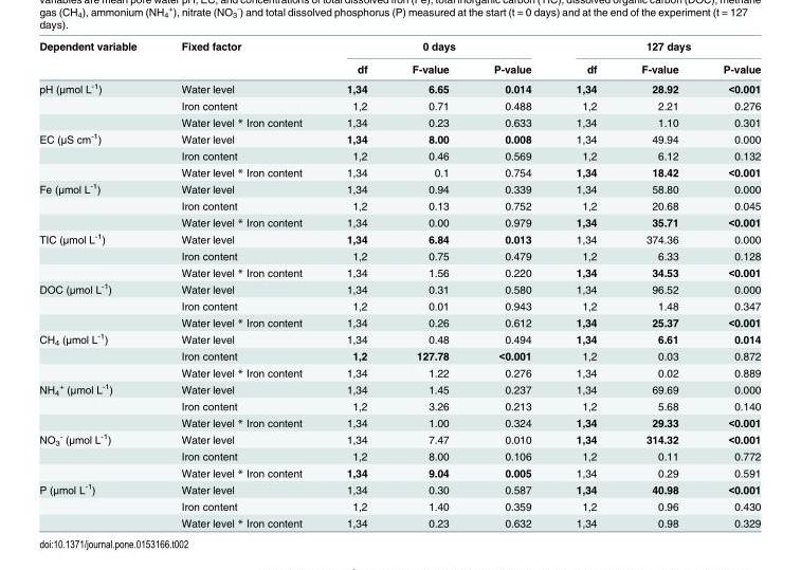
<table><thead><tr><td rowspan="2">Dependent variable</td><td rowspan="2">Fixed factor</td><td colspan="3">0 days</td><td colspan="3">127 days</td></tr><tr><td>df</td><td>F-value</td><td>P-value</td><td>df</td><td>F-value</td><td>P-value</td></tr></thead><tbody><tr><td rowspan="3">pH (μmol L<sup>-1</sup>)</td><td>Water level</td><td>1,34</td><td>6.65</td><td>0.014</td><td>1,34</td><td>28.92</td><td>&lt;0.001</td></tr><tr><td>Iron content</td><td>1,2</td><td>0.71</td><td>0.488</td><td>1,2</td><td>2.21</td><td>0.276</td></tr><tr><td>Water level * Iron content</td><td>1,34</td><td>0.23</td><td>0.633</td><td>1,34</td><td>1.10</td><td>0.301</td></tr><tr><td rowspan="3">EC (μS cm<sup>-1</sup>)</td><td>Water level</td><td>1,34</td><td>8.00</td><td>0.008</td><td>1,34</td><td>49.94</td><td>0.000</td></tr><tr><td>Iron content</td><td>1,2</td><td>0.46</td><td>0.569</td><td>1,2</td><td>6.12</td><td>0.132</td></tr><tr><td>Water level * Iron content</td><td>1,34</td><td>0.1</td><td>0.754</td><td>1,34</td><td>18.42</td><td>&lt;0.001</td></tr><tr><td rowspan="3">Fe (μmol L<sup>-1</sup>)</td><td>Water level</td><td>1,34</td><td>0.94</td><td>0.339</td><td>1,34</td><td>58.80</td><td>0.000</td></tr><tr><td>Iron content</td><td>1,2</td><td>0.13</td><td>0.752</td><td>1,2</td><td>20.68</td><td>0.045</td></tr><tr><td>Water level * Iron content</td><td>1,34</td><td>0.00</td><td>0.979</td><td>1,34</td><td>35.71</td><td>&lt;0.001</td></tr><tr><td rowspan="3">TIC (μmol L<sup>-1</sup>)</td><td>Water level</td><td>1,34</td><td>6.84</td><td>0.013</td><td>1,34</td><td>374.36</td><td>0.000</td></tr><tr><td>Iron content</td><td>1,2</td><td>0.75</td><td>0.479</td><td>1,2</td><td>6.33</td><td>0.128</td></tr><tr><td>Water level * Iron content</td><td>1,34</td><td>1.56</td><td>0.220</td><td>1,34</td><td>34.53</td><td>&lt;0.001</td></tr><tr><td rowspan="3">DOC (μmol L<sup>-1</sup>)</td><td>Water level</td><td>1,34</td><td>0.31</td><td>0.580</td><td>1,34</td><td>96.52</td><td>0.000</td></tr><tr><td>Iron content</td><td>1,2</td><td>0.01</td><td>0.943</td><td>1,2</td><td>1.48</td><td>0.347</td></tr><tr><td>Water level * Iron content</td><td>1,34</td><td>0.26</td><td>0.612</td><td>1,34</td><td>25.37</td><td>&lt;0.001</td></tr><tr><td rowspan="3">CH<sub>4</sub> (μmol L<sup>-1</sup>)</td><td>Water level</td><td>1,34</td><td>0.48</td><td>0.494</td><td>1,34</td><td>6.61</td><td>0.014</td></tr><tr><td>Iron content</td><td>1,2</td><td>127.78</td><td>&lt;0.001</td><td>1,2</td><td>0.03</td><td>0.872</td></tr><tr><td>Water level * Iron content</td><td>1,34</td><td>1.22</td><td>0.276</td><td>1,34</td><td>0.02</td><td>0.889</td></tr><tr><td rowspan="3">NH<sub>4</sub> <sup>+</sup> (μmol L<sup>-1</sup>)</td><td>Water level</td><td>1,34</td><td>1.45</td><td>0.237</td><td>1,34</td><td>69.69</td><td>0.000</td></tr><tr><td>Iron content</td><td>1,2</td><td>3.26</td><td>0.213</td><td>1,2</td><td>5.68</td><td>0.140</td></tr><tr><td>Water level * Iron content</td><td>1,34</td><td>1.00</td><td>0.324</td><td>1,34</td><td>29.33</td><td>&lt;0.001</td></tr><tr><td rowspan="3">NO<sub>3</sub> <sup>-</sup> (μmol L<sup>-1</sup>)</td><td>Water level</td><td>1,34</td><td>7.47</td><td>0.010</td><td>1,34</td><td>314.32</td><td>&lt;0.001</td></tr><tr><td>Iron content</td><td>1,2</td><td>8.00</td><td>0.106</td><td>1,2</td><td>0.11</td><td>0.772</td></tr><tr><td>Water level * Iron content</td><td>1,34</td><td>9.04</td><td>0.005</td><td>1,34</td><td>0.29</td><td>0.591</td></tr><tr><td rowspan="3">P (μmol L<sup>-1</sup>)</td><td>Water level</td><td>1,34</td><td>0.30</td><td>0.587</td><td>1,34</td><td>40.98</td><td>&lt;0.001</td></tr><tr><td>Iron content</td><td>1,2</td><td>1.40</td><td>0.359</td><td>1,2</td><td>0.96</td><td>0.430</td></tr><tr><td>Water level * Iron content</td><td>1,34</td><td>0.23</td><td>0.632</td><td>1,34</td><td>0.98</td><td>0.329</td></tr></tbody></table>